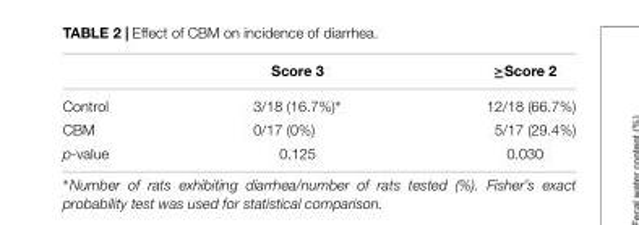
<table><thead><tr><td></td><td>Score 3</td><td>≥Score 2</td></tr></thead><tbody><tr><td>Control</td><td>3/18 (16.7%)∗</td><td>12/18 (66.7%)</td></tr><tr><td>CBM</td><td>0/17 (0%)</td><td>5/17 (29.4%)</td></tr><tr><td>p-value</td><td>0.125</td><td>0.030</td></tr></tbody></table>